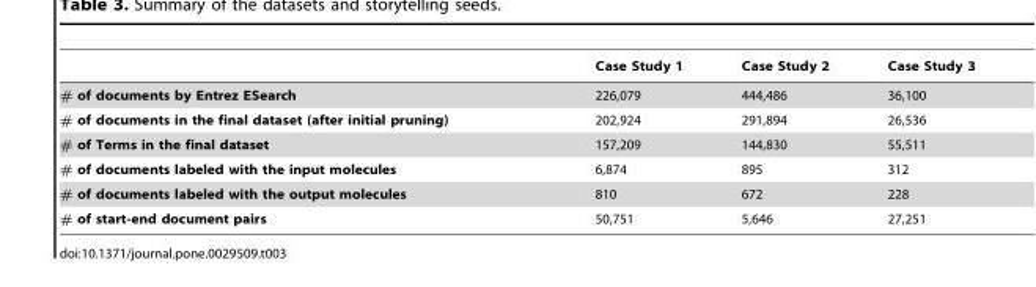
<table><thead><tr><td></td><td>Case Study 1</td><td>Case Study 2</td><td>Case Study 3</td></tr></thead><tbody><tr><td># of documents by Entrez ESearch</td><td>226,079</td><td>444,486</td><td>36,100</td></tr><tr><td># of documents in the final dataset (after initial pruning)</td><td>202,924</td><td>291,894</td><td>26,536</td></tr><tr><td># of Terms in the final dataset</td><td>157,209</td><td>144,830</td><td>55,511</td></tr><tr><td># of documents labeled with the input molecules</td><td>6,874</td><td>895</td><td>312</td></tr><tr><td># of documents labeled with the output molecules</td><td>810</td><td>672</td><td>228</td></tr><tr><td># of start-end document pairs</td><td>50,751</td><td>5,646</td><td>27,251</td></tr></tbody></table>